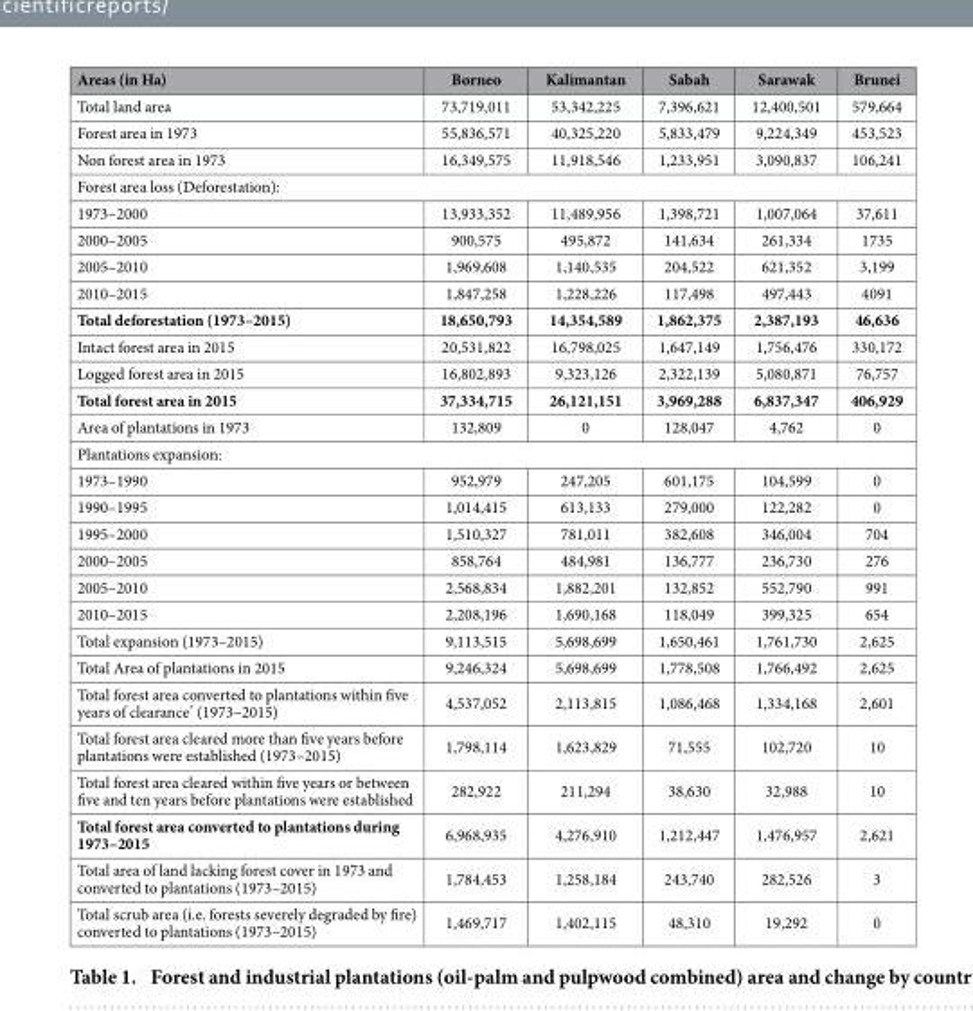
<table><thead><tr><td>Areas (in Ha)</td><td>Borneo</td><td>Kalimantan</td><td>Sabah</td><td>Sarawak</td><td>Brunei</td></tr></thead><tbody><tr><td>Total land area</td><td>73,719,011</td><td>53,342,225</td><td>7,396,621</td><td>12,400,501</td><td>579,664</td></tr><tr><td>Forest area in 1973</td><td>55,836,571</td><td>40,325,220</td><td>5,833,479</td><td>9,224,349</td><td>453,523</td></tr><tr><td>Non forest area in 1973</td><td>16,349,575</td><td>11,918,546</td><td>1,233,951</td><td>3,090,837</td><td>106,241</td></tr><tr><td colspan="6">Forest area loss (Deforestation):</td></tr><tr><td>1973–2000</td><td>13,933,352</td><td>11,489,956</td><td>1,398,721</td><td>1,007,064</td><td>37,611</td></tr><tr><td>2000–2005</td><td>900,575</td><td>495,872</td><td>141,634</td><td>261,334</td><td>1735</td></tr><tr><td>2005–2010</td><td>1,969,608</td><td>1,140,535</td><td>204,522</td><td>621,352</td><td>3,199</td></tr><tr><td>2010–2015</td><td>1,847,258</td><td>1,228,226</td><td>117,498</td><td>497,443</td><td>4091</td></tr><tr><td>Total deforestation (1973–2015)</td><td>18,650,793</td><td>14,354,589</td><td>1,862,375</td><td>2,387,193</td><td>46,636</td></tr><tr><td>Intact forest area in 2015</td><td>20,531,822</td><td>16,798,025</td><td>1,647,149</td><td>1,756,476</td><td>330,172</td></tr><tr><td>Logged forest area in 2015</td><td>16,802,893</td><td>9,323,126</td><td>2,322,139</td><td>5,080,871</td><td>76,757</td></tr><tr><td>Total forest area in 2015</td><td>37,334,715</td><td>26,121,151</td><td>3,969,288</td><td>6,837,347</td><td>406,929</td></tr><tr><td>Area of plantations in 1973</td><td>132,809</td><td>0</td><td>128,047</td><td>4,762</td><td>0</td></tr><tr><td colspan="6">Plantations expansion:</td></tr><tr><td>1973–1990</td><td>952,979</td><td>247,205</td><td>601,175</td><td>104,599</td><td>0</td></tr><tr><td>1990–1995</td><td>1,014,415</td><td>613,133</td><td>279,000</td><td>122,282</td><td>0</td></tr><tr><td>1995–2000</td><td>1,510,327</td><td>781,011</td><td>382,608</td><td>346,004</td><td>704</td></tr><tr><td>2000–2005</td><td>858,764</td><td>484,981</td><td>136,777</td><td>236,730</td><td>276</td></tr><tr><td>2005–2010</td><td>2,568,834</td><td>1,882,201</td><td>132,852</td><td>552,790</td><td>991</td></tr><tr><td>2010–2015</td><td>2,208,196</td><td>1,690,168</td><td>118,049</td><td>399,325</td><td>654</td></tr><tr><td>Total expansion (1973–2015)</td><td>9,113,515</td><td>5,698,699</td><td>1,650,461</td><td>1,761,730</td><td>2,625</td></tr><tr><td>Total Area of plantations in 2015</td><td>9,246,324</td><td>5,698,699</td><td>1,778,508</td><td>1,766,492</td><td>2,625</td></tr><tr><td>Total forest area converted to plantations within five years of clearance* (1973–2015)</td><td>4,537,052</td><td>2,113,815</td><td>1,086,468</td><td>1,334,168</td><td>2,601</td></tr><tr><td>Total forest area cleared more than five years before plantations were established (1973–2015)</td><td>1,798,114</td><td>1,623,829</td><td>71,555</td><td>102,720</td><td>10</td></tr><tr><td>Total forest area cleared within five years or between five and ten years before plantations were established</td><td>282,922</td><td>211,294</td><td>38,630</td><td>32,988</td><td>10</td></tr><tr><td>Total forest area converted to plantations during 1973–2015</td><td>6,968,935</td><td>4,276,910</td><td>1,212,447</td><td>1,476,957</td><td>2,621</td></tr><tr><td>Total area of land lacking forest cover in 1973 and converted to plantations (1973–2015)</td><td>1,784,453</td><td>1,258,184</td><td>243,740</td><td>282,526</td><td>3</td></tr><tr><td>Total scrub area (i.e. forests severely degraded by fire) converted to plantations (1973–2015)</td><td>1,469,717</td><td>1,402,115</td><td>48,310</td><td>19,292</td><td>0</td></tr></tbody></table>